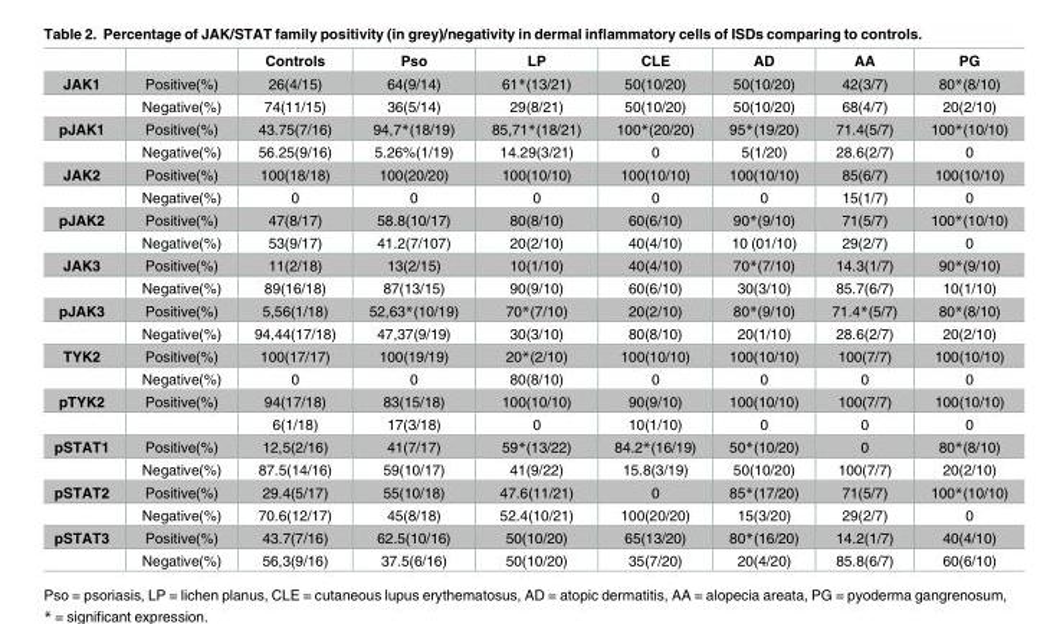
<table><thead><tr><td></td><td></td><td>Controls</td><td>Pso</td><td>LP</td><td>CLE</td><td>AD</td><td>AA</td><td>PG</td></tr></thead><tbody><tr><td rowspan="2">JAK1</td><td>Positive(%)</td><td>26(4/15)</td><td>64(9/14)</td><td>61*(13/21)</td><td>50(10/20)</td><td>50(10/20)</td><td>42(3/7)</td><td>80*(8/10)</td></tr><tr><td>Negative(%)</td><td>74(11/15)</td><td>36(5/14)</td><td>29(8/21)</td><td>50(10/20)</td><td>50(10/20)</td><td>68(4/7)</td><td>20(2/10)</td></tr><tr><td rowspan="2">pJAK1</td><td>Positive(%)</td><td>43.75(7/16)</td><td>94,7*(18/19)</td><td>85,71*(18/21)</td><td>100*(20/20)</td><td>95*(19/20)</td><td>71.4(5/7)</td><td>100*(10/10)</td></tr><tr><td>Negative(%)</td><td>56.25(9/16)</td><td>5.26%(1/19)</td><td>14.29(3/21)</td><td>0</td><td>5(1/20)</td><td>28.6(2/7)</td><td>0</td></tr><tr><td rowspan="2">JAK2</td><td>Positive(%)</td><td>100(18/18)</td><td>100(20/20)</td><td>100(10/10)</td><td>100(10/10)</td><td>100(10/10)</td><td>85(6/7)</td><td>100(10/10)</td></tr><tr><td>Negative(%)</td><td>0</td><td>0</td><td>0</td><td>0</td><td>0</td><td>15(1/7)</td><td>0</td></tr><tr><td rowspan="2">pJAK2</td><td>Positive(%)</td><td>47(8/17)</td><td>58.8(10/17)</td><td>80(8/10)</td><td>60(6/10)</td><td>90*(9/10)</td><td>71(5/7)</td><td>100*(10/10)</td></tr><tr><td>Negative(%)</td><td>53(9/17)</td><td>41.2(7/107)</td><td>20(2/10)</td><td>40(4/10)</td><td>10 (01/10)</td><td>29(2/7)</td><td>0</td></tr><tr><td rowspan="2">JAK3</td><td>Positive(%)</td><td>11(2/18)</td><td>13(2/15)</td><td>10(1/10)</td><td>40(4/10)</td><td>70*(7/10)</td><td>14.3(1/7)</td><td>90*(9/10)</td></tr><tr><td>Negative(%)</td><td>89(16/18)</td><td>87(13/15)</td><td>90(9/10)</td><td>60(6/10)</td><td>30(3/10)</td><td>85.7(6/7)</td><td>10(1/10)</td></tr><tr><td rowspan="2">pJAK3</td><td>Positive(%)</td><td>5,56(1/18)</td><td>52,63*(10/19)</td><td>70*(7/10)</td><td>20(2/10)</td><td>80*(9/10)</td><td>71.4*(5/7)</td><td>80*(8/10)</td></tr><tr><td>Negative(%)</td><td>94,44(17/18)</td><td>47,37(9/19)</td><td>30(3/10)</td><td>80(8/10)</td><td>20(1/10)</td><td>28.6(2/7)</td><td>20(2/10)</td></tr><tr><td rowspan="2">TYK2</td><td>Positive(%)</td><td>100(17/17)</td><td>100(19/19)</td><td>20*(2/10)</td><td>100(10/10)</td><td>100(10/10)</td><td>100(7/7)</td><td>100(10/10)</td></tr><tr><td>Negative(%)</td><td>0</td><td>0</td><td>80(8/10)</td><td>0</td><td>0</td><td>0</td><td>0</td></tr><tr><td rowspan="2">pTYK2</td><td>Positive(%)</td><td>94(17/18)</td><td>83(15/18)</td><td>100(10/10)</td><td>90(9/10)</td><td>100(10/10)</td><td>100(7/7)</td><td>100(10/10)</td></tr><tr><td></td><td>6(1/18)</td><td>17(3/18)</td><td>0</td><td>10(1/10)</td><td>0</td><td>0</td><td>0</td></tr><tr><td rowspan="2">pSTAT1</td><td>Positive(%)</td><td>12,5(2/16)</td><td>41(7/17)</td><td>59*(13/22)</td><td>84.2*(16/19)</td><td>50*(10/20)</td><td>0</td><td>80*(8/10)</td></tr><tr><td>Negative(%)</td><td>87.5(14/16)</td><td>59(10/17)</td><td>41(9/22)</td><td>15.8(3/19)</td><td>50(10/20)</td><td>100(7/7)</td><td>20(2/10)</td></tr><tr><td rowspan="2">pSTAT2</td><td>Positive(%)</td><td>29.4(5/17)</td><td>55(10/18)</td><td>47.6(11/21)</td><td>0</td><td>85*(17/20)</td><td>71(5/7)</td><td>100*(10/10)</td></tr><tr><td>Negative(%)</td><td>70.6(12/17)</td><td>45(8/18)</td><td>52.4(10/21)</td><td>100(20/20)</td><td>15(3/20)</td><td>29(2/7)</td><td>0</td></tr><tr><td rowspan="2">pSTAT3</td><td>Positive(%)</td><td>43.7(7/16)</td><td>62.5(10/16)</td><td>50(10/20)</td><td>65(13/20)</td><td>80*(16/20)</td><td>14.2(1/7)</td><td>40(4/10)</td></tr><tr><td>Negative(%)</td><td>56,3(9/16)</td><td>37.5(6/16)</td><td>50(10/20)</td><td>35(7/20)</td><td>20(4/20)</td><td>85.8(6/7)</td><td>60(6/10)</td></tr></tbody></table>